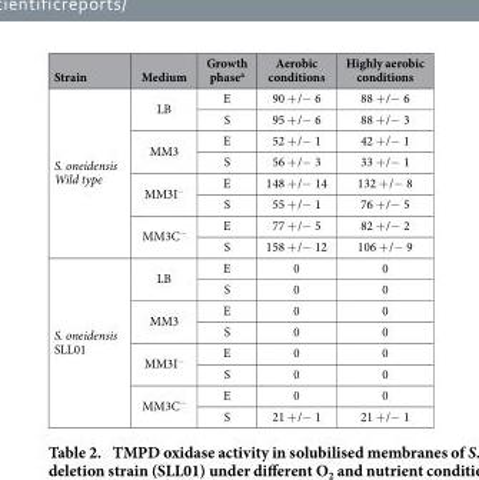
<table><thead><tr><td>Strain</td><td>Medium</td><td>Growth phase<sup>a</sup></td><td>Aerobic conditions</td><td>Highly aerobic conditions</td></tr></thead><tbody><tr><td rowspan="8">S. oneidensis Wild type</td><td rowspan="2">LB</td><td>E</td><td>90 + /− 6</td><td>88 + /− 6</td></tr><tr><td>S</td><td>95 + /− 6</td><td>88 + /− 3</td></tr><tr><td rowspan="2">MM3</td><td>E</td><td>52 + /− 1</td><td>42 + /− 1</td></tr><tr><td>S</td><td>56 + /− 3</td><td>33 + /− 1</td></tr><tr><td rowspan="2">MM3I<sup>−</sup></td><td>E</td><td>148 + /− 14</td><td>132 + /− 8</td></tr><tr><td>S</td><td>55 + /− 1</td><td>76 + /− 5</td></tr><tr><td rowspan="2">MM3C<sup>−</sup></td><td>E</td><td>77 + /− 5</td><td>82 + /− 2</td></tr><tr><td>S</td><td>158 + /− 12</td><td>106 + /− 9</td></tr><tr><td rowspan="8">S. oneidensis SLL01</td><td rowspan="2">LB</td><td>E</td><td>0</td><td>0</td></tr><tr><td>S</td><td>0</td><td>0</td></tr><tr><td rowspan="2">MM3</td><td>E</td><td>0</td><td>0</td></tr><tr><td>S</td><td>0</td><td>0</td></tr><tr><td rowspan="2">MM3I<sup>−</sup></td><td>E</td><td>0</td><td>0</td></tr><tr><td>S</td><td>0</td><td>0</td></tr><tr><td rowspan="2">MM3C<sup>−</sup></td><td>E</td><td>0</td><td>0</td></tr><tr><td>S</td><td>21 + /− 1</td><td>21 + /− 1</td></tr></tbody></table>